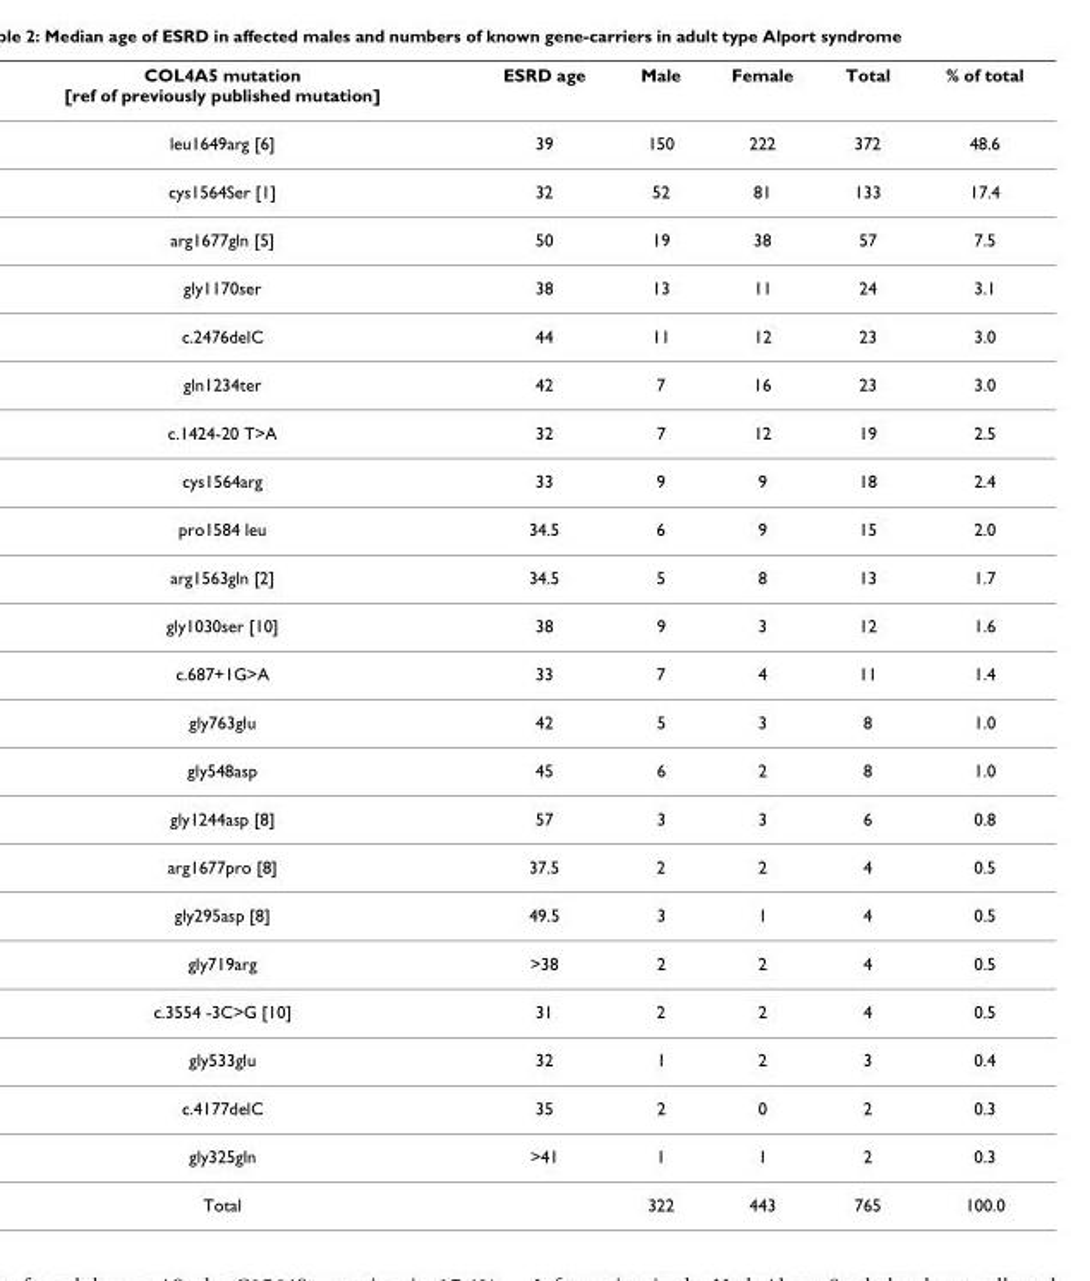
<table><thead><tr><td>COL4A5 mutation [ref of previously published mutation]</td><td>ESRD age</td><td>Male</td><td>Female</td><td>Total</td><td>% of total</td></tr></thead><tbody><tr><td>leu1649arg [6]</td><td>39</td><td>150</td><td>222</td><td>372</td><td>48.6</td></tr><tr><td>cys1564Ser [1]</td><td>32</td><td>52</td><td>81</td><td>133</td><td>17.4</td></tr><tr><td>arg1677gln [5]</td><td>50</td><td>19</td><td>38</td><td>57</td><td>7.5</td></tr><tr><td>gly1170ser</td><td>38</td><td>13</td><td>11</td><td>24</td><td>3.1</td></tr><tr><td>c.2476delC</td><td>44</td><td>11</td><td>12</td><td>23</td><td>3.0</td></tr><tr><td>gln1234ter</td><td>42</td><td>7</td><td>16</td><td>23</td><td>3.0</td></tr><tr><td>c.1424-20 T&gt;A</td><td>32</td><td>7</td><td>12</td><td>19</td><td>2.5</td></tr><tr><td>cys1564arg</td><td>33</td><td>9</td><td>9</td><td>18</td><td>2.4</td></tr><tr><td>pro1584 leu</td><td>34.5</td><td>6</td><td>9</td><td>15</td><td>2.0</td></tr><tr><td>arg1563gln [2]</td><td>34.5</td><td>5</td><td>8</td><td>13</td><td>1.7</td></tr><tr><td>gly1030ser [10]</td><td>38</td><td>9</td><td>3</td><td>12</td><td>1.6</td></tr><tr><td>c.687+1G&gt;A</td><td>33</td><td>7</td><td>4</td><td>11</td><td>1.4</td></tr><tr><td>gly763glu</td><td>42</td><td>5</td><td>3</td><td>8</td><td>1.0</td></tr><tr><td>gly548asp</td><td>45</td><td>6</td><td>2</td><td>8</td><td>1.0</td></tr><tr><td>gly1244asp [8]</td><td>57</td><td>3</td><td>3</td><td>6</td><td>0.8</td></tr><tr><td>arg1677pro [8]</td><td>37.5</td><td>2</td><td>2</td><td>4</td><td>0.5</td></tr><tr><td>gly295asp [8]</td><td>49.5</td><td>3</td><td>1</td><td>4</td><td>0.5</td></tr><tr><td>gly719arg</td><td>&gt;38</td><td>2</td><td>2</td><td>4</td><td>0.5</td></tr><tr><td>c.3554 -3C&gt;G [10]</td><td>31</td><td>2</td><td>2</td><td>4</td><td>0.5</td></tr><tr><td>gly533glu</td><td>32</td><td>1</td><td>2</td><td>3</td><td>0.4</td></tr><tr><td>c.4177delC</td><td>35</td><td>2</td><td>0</td><td>2</td><td>0.3</td></tr><tr><td>gly325gln</td><td>&gt;41</td><td>1</td><td>1</td><td>2</td><td>0.3</td></tr><tr><td>Total</td><td></td><td>322</td><td>443</td><td>765</td><td>100.0</td></tr></tbody></table>